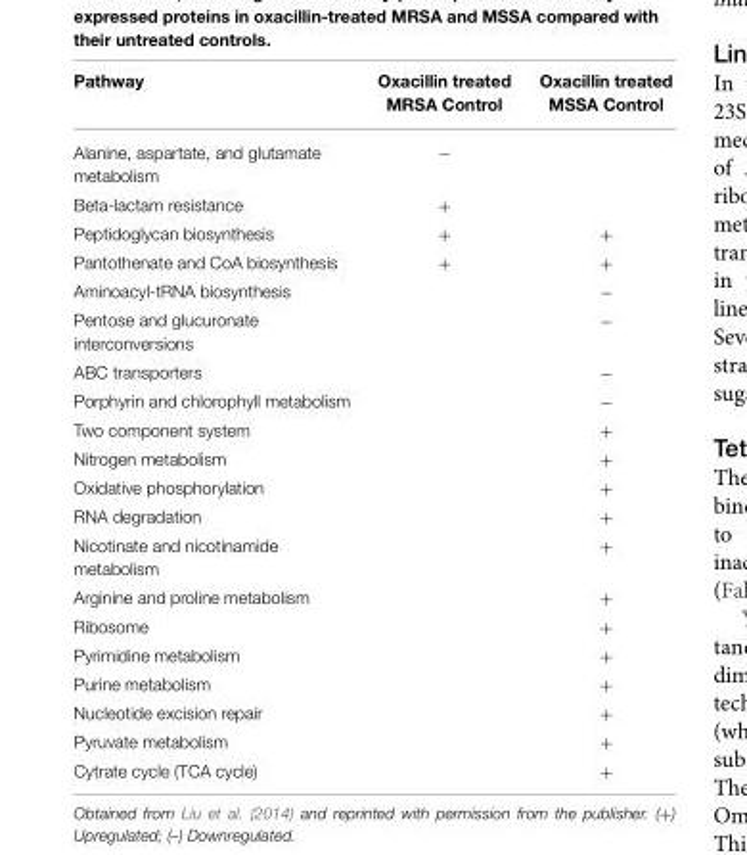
<table><thead><tr><td>Pathway</td><td>Oxacillin treated MRSA Control</td><td>Oxacillin treated MSSA Control</td></tr></thead><tbody><tr><td>Alanine, aspartate, and glutamate metabolism</td><td>−</td><td></td></tr><tr><td>Beta-lactam resistance</td><td>+</td><td></td></tr><tr><td>Peptidoglycan biosynthesis</td><td>+</td><td>+</td></tr><tr><td>Pantothenate and CoA biosynthesis</td><td>+</td><td>+</td></tr><tr><td>Aminoacyl-tRNA biosynthesis</td><td></td><td>−</td></tr><tr><td>Pentose and glucuronate interconversions</td><td></td><td>−</td></tr><tr><td>ABC transporters</td><td></td><td>−</td></tr><tr><td>Porphyrin and chlorophyll metabolism</td><td></td><td>−</td></tr><tr><td>Two component system</td><td></td><td>+</td></tr><tr><td>Nitrogen metabolism</td><td></td><td>+</td></tr><tr><td>Oxidative phosphorylation</td><td></td><td>+</td></tr><tr><td>RNA degradation</td><td></td><td>+</td></tr><tr><td>Nicotinate and nicotinamide metabolism</td><td></td><td>+</td></tr><tr><td>Arginine and proline metabolism</td><td></td><td>+</td></tr><tr><td>Ribosome</td><td></td><td>+</td></tr><tr><td>Pyrimidine metabolism</td><td></td><td>+</td></tr><tr><td>Purine metabolism</td><td></td><td>+</td></tr><tr><td>Nucleotide excision repair</td><td></td><td>+</td></tr><tr><td>Pyruvate metabolism</td><td></td><td>+</td></tr><tr><td>Cytrate cycle (TCA cycle)</td><td></td><td>+</td></tr></tbody></table>